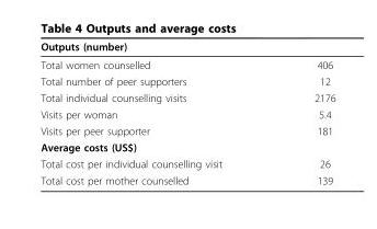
<table><thead><tr><td>Outputs (number)</td><td></td></tr></thead><tbody><tr><td>Total women counselled</td><td>406</td></tr><tr><td>Total number of peer supporters</td><td>12</td></tr><tr><td>Total individual counselling visits</td><td>2176</td></tr><tr><td>Visits per woman</td><td>5.4</td></tr><tr><td>Visits per peer supporter</td><td>181</td></tr><tr><td colspan="2">Average costs (US$)</td></tr><tr><td>Total cost per individual counselling visit</td><td>26</td></tr><tr><td>Total cost per mother counselled</td><td>139</td></tr></tbody></table>